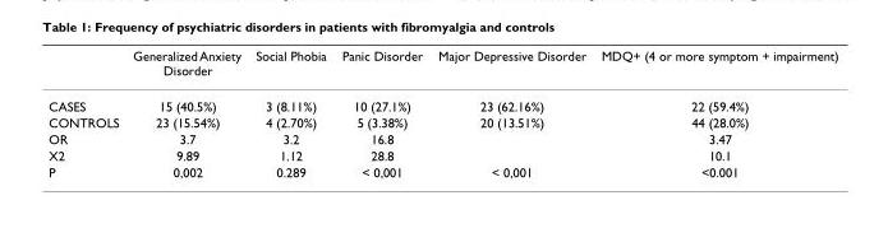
<table><thead><tr><td></td><td>Generalized Anxiety Disorder</td><td>Social Phobia</td><td>Panic Disorder</td><td>Major Depressive Disorder</td><td>MDQ+ (4 or more symptom + impairment)</td></tr></thead><tbody><tr><td>CASES</td><td>15 (40.5%)</td><td>3 (8.11%)</td><td>10 (27.1%)</td><td>23 (62.16%)</td><td>22 (59.4%)</td></tr><tr><td>CONTROLS</td><td>23 (15.54%)</td><td>4 (2.70%)</td><td>5 (3.38%)</td><td>20 (13.51%)</td><td>44 (28.0%)</td></tr><tr><td>OR</td><td>3.7</td><td>3.2</td><td>16.8</td><td></td><td>3.47</td></tr><tr><td>X2</td><td>9.89</td><td>1.12</td><td>28.8</td><td></td><td>10.1</td></tr><tr><td>P</td><td>0,002</td><td>0.289</td><td>&lt; 0,001</td><td>&lt; 0,001</td><td>&lt;0.001</td></tr></tbody></table>